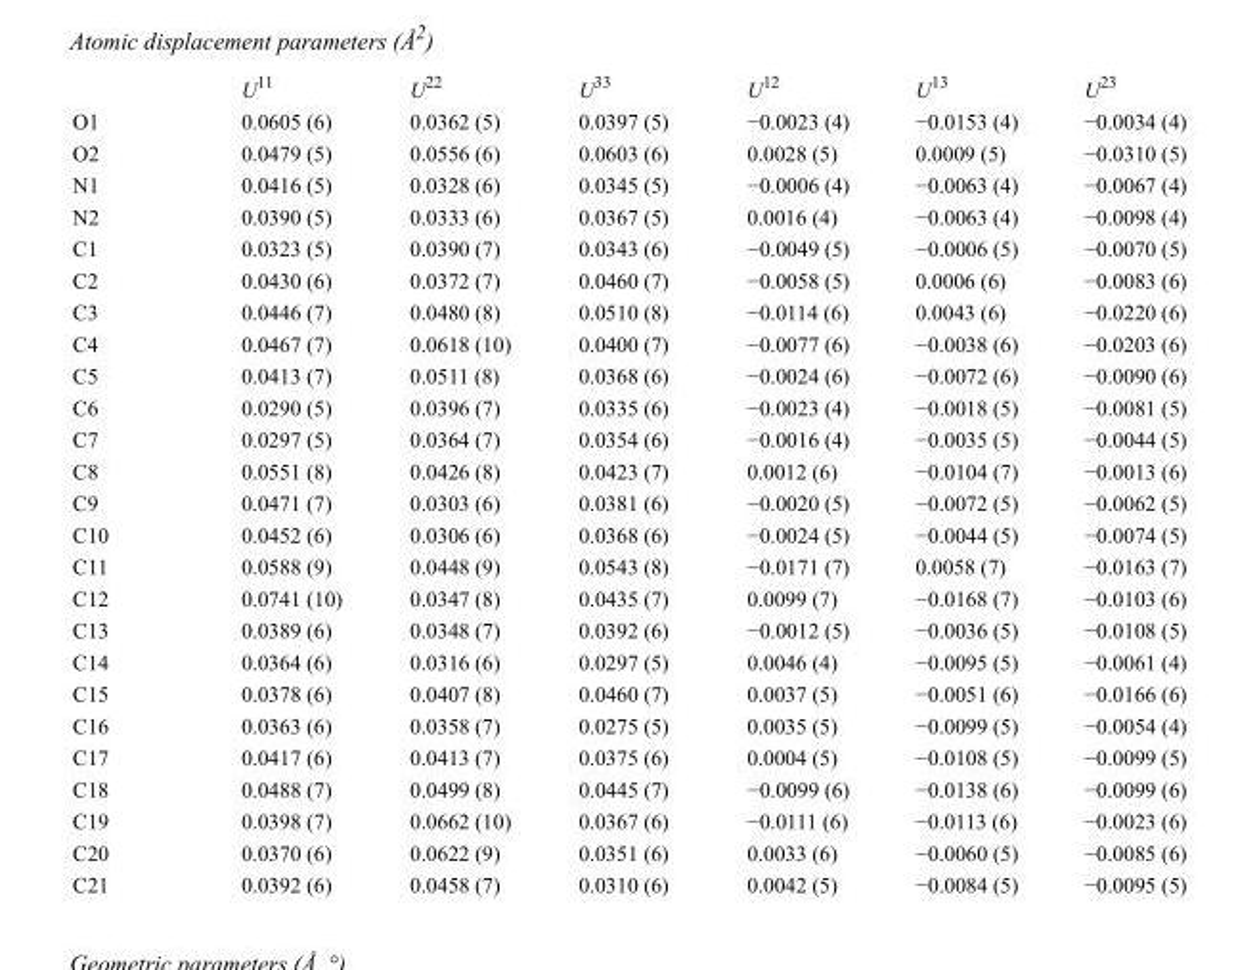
<table><thead><tr><td></td><td>U<sup>11</sup></td><td>U<sup>22</sup></td><td>U<sup>33</sup></td><td>U<sup>12</sup></td><td>U<sup>13</sup></td><td>U<sup>23</sup></td></tr></thead><tbody><tr><td>O1</td><td>0.0605 (6)</td><td>0.0362 (5)</td><td>0.0397 (5)</td><td>−0.0023 (4)</td><td>−0.0153 (4)</td><td>−0.0034 (4)</td></tr><tr><td>O2</td><td>0.0479 (5)</td><td>0.0556 (6)</td><td>0.0603 (6)</td><td>0.0028 (5)</td><td>0.0009 (5)</td><td>−0.0310 (5)</td></tr><tr><td>N1</td><td>0.0416 (5)</td><td>0.0328 (6)</td><td>0.0345 (5)</td><td>−0.0006 (4)</td><td>−0.0063 (4)</td><td>−0.0067 (4)</td></tr><tr><td>N2</td><td>0.0390 (5)</td><td>0.0333 (6)</td><td>0.0367 (5)</td><td>0.0016 (4)</td><td>−0.0063 (4)</td><td>−0.0098 (4)</td></tr><tr><td>C1</td><td>0.0323 (5)</td><td>0.0390 (7)</td><td>0.0343 (6)</td><td>−0.0049 (5)</td><td>−0.0006 (5)</td><td>−0.0070 (5)</td></tr><tr><td>C2</td><td>0.0430 (6)</td><td>0.0372 (7)</td><td>0.0460 (7)</td><td>−0.0058 (5)</td><td>0.0006 (6)</td><td>−0.0083 (6)</td></tr><tr><td>C3</td><td>0.0446 (7)</td><td>0.0480 (8)</td><td>0.0510 (8)</td><td>−0.0114 (6)</td><td>0.0043 (6)</td><td>−0.0220 (6)</td></tr><tr><td>C4</td><td>0.0467 (7)</td><td>0.0618 (10)</td><td>0.0400 (7)</td><td>−0.0077 (6)</td><td>−0.0038 (6)</td><td>−0.0203 (6)</td></tr><tr><td>C5</td><td>0.0413 (7)</td><td>0.0511 (8)</td><td>0.0368 (6)</td><td>−0.0024 (6)</td><td>−0.0072 (6)</td><td>−0.0090 (6)</td></tr><tr><td>C6</td><td>0.0290 (5)</td><td>0.0396 (7)</td><td>0.0335 (6)</td><td>−0.0023 (4)</td><td>−0.0018 (5)</td><td>−0.0081 (5)</td></tr><tr><td>C7</td><td>0.0297 (5)</td><td>0.0364 (7)</td><td>0.0354 (6)</td><td>−0.0016 (4)</td><td>−0.0035 (5)</td><td>−0.0044 (5)</td></tr><tr><td>C8</td><td>0.0551 (8)</td><td>0.0426 (8)</td><td>0.0423 (7)</td><td>0.0012 (6)</td><td>−0.0104 (7)</td><td>−0.0013 (6)</td></tr><tr><td>C9</td><td>0.0471 (7)</td><td>0.0303 (6)</td><td>0.0381 (6)</td><td>−0.0020 (5)</td><td>−0.0072 (5)</td><td>−0.0062 (5)</td></tr><tr><td>C10</td><td>0.0452 (6)</td><td>0.0306 (6)</td><td>0.0368 (6)</td><td>−0.0024 (5)</td><td>−0.0044 (5)</td><td>−0.0074 (5)</td></tr><tr><td>C11</td><td>0.0588 (9)</td><td>0.0448 (9)</td><td>0.0543 (8)</td><td>−0.0171 (7)</td><td>0.0058 (7)</td><td>−0.0163 (7)</td></tr><tr><td>C12</td><td>0.0741 (10)</td><td>0.0347 (8)</td><td>0.0435 (7)</td><td>0.0099 (7)</td><td>−0.0168 (7)</td><td>−0.0103 (6)</td></tr><tr><td>C13</td><td>0.0389 (6)</td><td>0.0348 (7)</td><td>0.0392 (6)</td><td>−0.0012 (5)</td><td>−0.0036 (5)</td><td>−0.0108 (5)</td></tr><tr><td>C14</td><td>0.0364 (6)</td><td>0.0316 (6)</td><td>0.0297 (5)</td><td>0.0046 (4)</td><td>−0.0095 (5)</td><td>−0.0061 (4)</td></tr><tr><td>C15</td><td>0.0378 (6)</td><td>0.0407 (8)</td><td>0.0460 (7)</td><td>0.0037 (5)</td><td>−0.0051 (6)</td><td>−0.0166 (6)</td></tr><tr><td>C16</td><td>0.0363 (6)</td><td>0.0358 (7)</td><td>0.0275 (5)</td><td>0.0035 (5)</td><td>−0.0099 (5)</td><td>−0.0054 (4)</td></tr><tr><td>C17</td><td>0.0417 (6)</td><td>0.0413 (7)</td><td>0.0375 (6)</td><td>0.0004 (5)</td><td>−0.0108 (5)</td><td>−0.0099 (5)</td></tr><tr><td>C18</td><td>0.0488 (7)</td><td>0.0499 (8)</td><td>0.0445 (7)</td><td>−0.0099 (6)</td><td>−0.0138 (6)</td><td>−0.0099 (6)</td></tr><tr><td>C19</td><td>0.0398 (7)</td><td>0.0662 (10)</td><td>0.0367 (6)</td><td>−0.0111 (6)</td><td>−0.0113 (6)</td><td>−0.0023 (6)</td></tr><tr><td>C20</td><td>0.0370 (6)</td><td>0.0622 (9)</td><td>0.0351 (6)</td><td>0.0033 (6)</td><td>−0.0060 (5)</td><td>−0.0085 (6)</td></tr><tr><td>C21</td><td>0.0392 (6)</td><td>0.0458 (7)</td><td>0.0310 (6)</td><td>0.0042 (5)</td><td>−0.0084 (5)</td><td>−0.0095 (5)</td></tr></tbody></table>